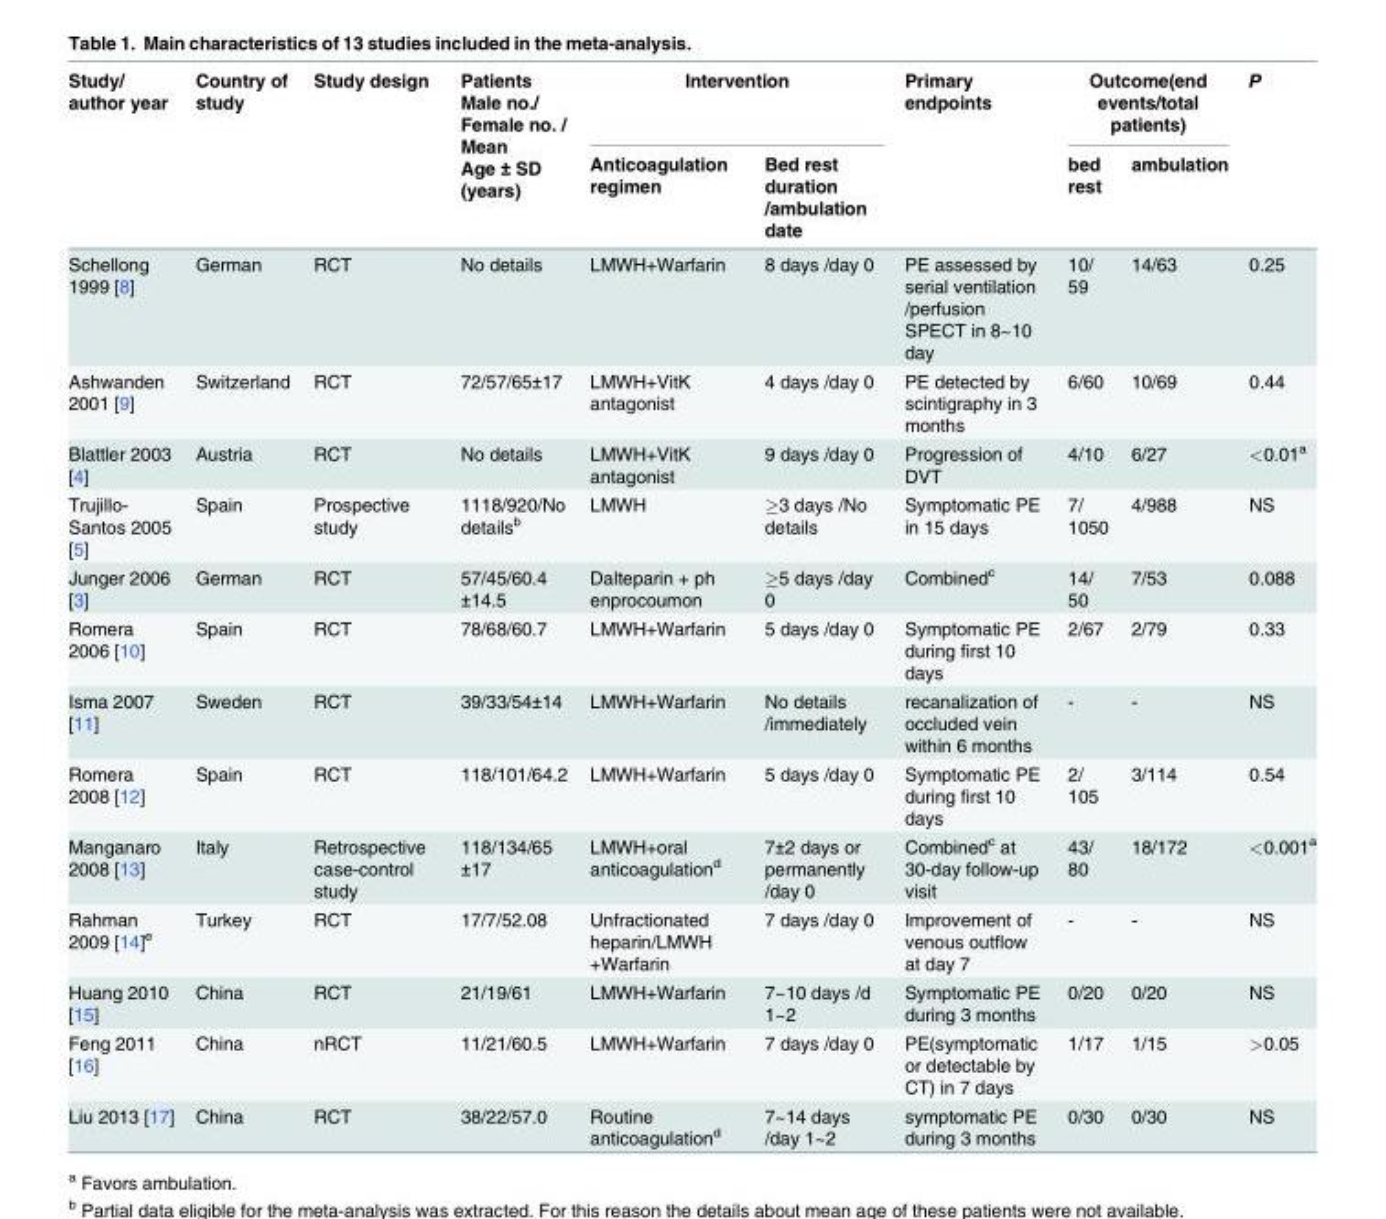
<table><thead><tr><td rowspan="2">Study/ author year</td><td rowspan="2">Country of study</td><td rowspan="2">Study design</td><td rowspan="2">Patients Male no./ Female no. / Mean Age ± SD (years)</td><td colspan="2">Intervention</td><td rowspan="2">Primary endpoints</td><td colspan="2">Outcome(end events/total patients)</td><td rowspan="2">P</td></tr><tr><td>Anticoagulation regimen</td><td>Bed rest duration /ambulation date</td><td>bed rest</td><td>ambulation</td></tr></thead><tbody><tr><td>Schellong 1999 [8]</td><td>German</td><td>RCT</td><td>No details</td><td>LMWH+Warfarin</td><td>8 days /day 0</td><td>PE assessed by serial ventilation /perfusion SPECT in 8~10 day</td><td>10/ 59</td><td>14/63</td><td>0.25</td></tr><tr><td>Ashwanden 2001 [9]</td><td>Switzerland</td><td>RCT</td><td>72/57/65±17</td><td>LMWH+VitK antagonist</td><td>4 days /day 0</td><td>PE detected by scintigraphy in 3 months</td><td>6/60</td><td>10/69</td><td>0.44</td></tr><tr><td>Blattler 2003 [4]</td><td>Austria</td><td>RCT</td><td>No details</td><td>LMWH+VitK antagonist</td><td>9 days /day 0</td><td>Progression of DVT</td><td>4/10</td><td>6/27</td><td>&lt;0.01<sup>a</sup></td></tr><tr><td>Trujillo- Santos 2005 [5]</td><td>Spain</td><td>Prospective study</td><td>1118/920/No details<sup>b</sup></td><td>LMWH</td><td>≥3 days /No details</td><td>Symptomatic PE in 15 days</td><td>7/ 1050</td><td>4/988</td><td>NS</td></tr><tr><td>Junger 2006 [3]</td><td>German</td><td>RCT</td><td>57/45/60.4 ±14.5</td><td>Dalteparin + ph enprocoumon</td><td>≥5 days /day 0</td><td>Combined<sup>c</sup></td><td>14/ 50</td><td>7/53</td><td>0.088</td></tr><tr><td>Romera 2006 [10]</td><td>Spain</td><td>RCT</td><td>78/68/60.7</td><td>LMWH+Warfarin</td><td>5 days /day 0</td><td>Symptomatic PE during first 10 days</td><td>2/67</td><td>2/79</td><td>0.33</td></tr><tr><td>Isma 2007 [11]</td><td>Sweden</td><td>RCT</td><td>39/33/54±14</td><td>LMWH+Warfarin</td><td>No details /immediately</td><td>recanalization of occluded vein within 6 months</td><td>-</td><td>-</td><td>NS</td></tr><tr><td>Romera 2008 [12]</td><td>Spain</td><td>RCT</td><td>118/101/64.2</td><td>LMWH+Warfarin</td><td>5 days /day 0</td><td>Symptomatic PE during first 10 days</td><td>2/ 105</td><td>3/114</td><td>0.54</td></tr><tr><td>Manganaro 2008 [13]</td><td>Italy</td><td>Retrospective case-control study</td><td>118/134/65 ±17</td><td>LMWH+oral anticoagulation<sup>d</sup></td><td>7±2 days or permanently /day 0</td><td>Combined<sup>c</sup> at 30-day follow-up visit</td><td>43/ 80</td><td>18/172</td><td>&lt;0.001<sup>a</sup></td></tr><tr><td>Rahman 2009 [14]<sup>e</sup></td><td>Turkey</td><td>RCT</td><td>17/7/52.08</td><td>Unfractionated heparin/LMWH +Warfarin</td><td>7 days /day 0</td><td>Improvement of venous outflow at day 7</td><td>-</td><td>-</td><td>NS</td></tr><tr><td>Huang 2010 [15]</td><td>China</td><td>RCT</td><td>21/19/61</td><td>LMWH+Warfarin</td><td>7~10 days /d 1~2</td><td>Symptomatic PE during 3 months</td><td>0/20</td><td>0/20</td><td>NS</td></tr><tr><td>Feng 2011 [16]</td><td>China</td><td>nRCT</td><td>11/21/60.5</td><td>LMWH+Warfarin</td><td>7 days /day 0</td><td>PE(symptomatic or detectable by CT) in 7 days</td><td>1/17</td><td>1/15</td><td>&gt;0.05</td></tr><tr><td>Liu 2013 [17]</td><td>China</td><td>RCT</td><td>38/22/57.0</td><td>Routine anticoagulation<sup>d</sup></td><td>7~14 days /day 1~2</td><td>symptomatic PE during 3 months</td><td>0/30</td><td>0/30</td><td>NS</td></tr></tbody></table>